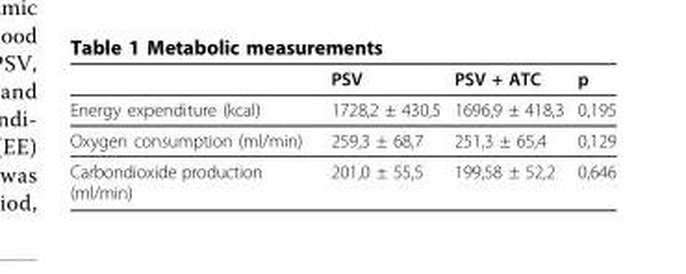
<table><thead><tr><td></td><td>PSV</td><td>PSV + ATC</td><td>p</td></tr></thead><tbody><tr><td>Energy expenditure (kcal)</td><td>1728,2 ± 430,5</td><td>1696,9 ± 418,3</td><td>0,195</td></tr><tr><td>Oxygen consumption (ml/min)</td><td>259,3 ± 68,7</td><td>251,3 ± 65,4</td><td>0,129</td></tr><tr><td>Carbondioxide production (ml/min)</td><td>201,0 ± 55,5</td><td>199,58 ± 52,2</td><td>0,646</td></tr></tbody></table>